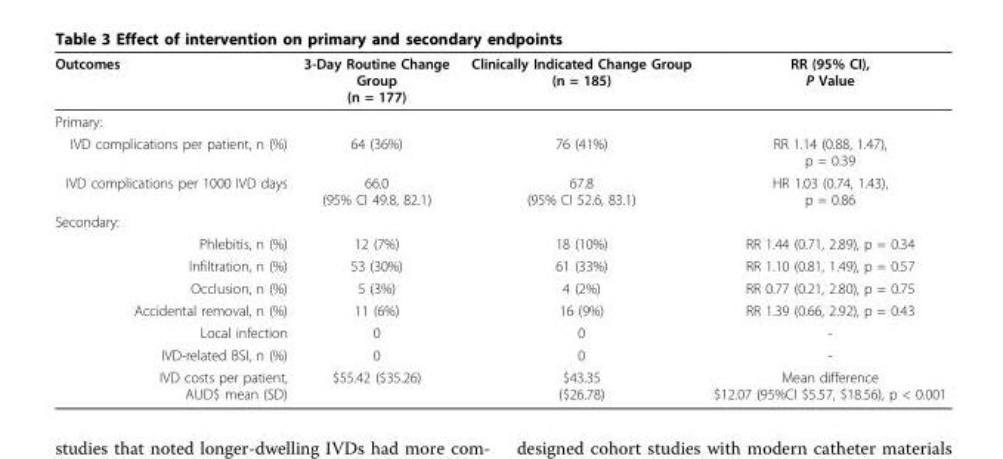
<table><thead><tr><td>Outcomes</td><td>3-Day Routine Change Group (n = 177)</td><td>Clinically Indicated Change Group (n = 185)</td><td>RR (95% CI), P Value</td></tr></thead><tbody><tr><td colspan="4">Primary:</td></tr><tr><td>IVD complications per patient, n (%)</td><td>64 (36%)</td><td>76 (41%)</td><td>RR 1.14 (0.88, 1.47), p = 0.39</td></tr><tr><td>IVD complications per 1000 IVD days</td><td>66.0 (95% CI 49.8, 82.1)</td><td>67.8 (95% CI 52.6, 83.1)</td><td>HR 1.03 (0.74, 1.43), p = 0.86</td></tr><tr><td colspan="4">Secondary:</td></tr><tr><td>Phlebitis, n (%)</td><td>12 (7%)</td><td>18 (10%)</td><td>RR 1.44 (0.71, 2.89), p = 0.34</td></tr><tr><td>Infiltration, n (%)</td><td>53 (30%)</td><td>61 (33%)</td><td>RR 1.10 (0.81, 1.49), p = 0.57</td></tr><tr><td>Occlusion, n (%)</td><td>5 (3%)</td><td>4 (2%)</td><td>RR 0.77 (0.21, 2.80), p = 0.75</td></tr><tr><td>Accidental removal, n (%)</td><td>11 (6%)</td><td>16 (9%)</td><td>RR 1.39 (0.66, 2.92), p = 0.43</td></tr><tr><td>Local infection</td><td>0</td><td>0</td><td>-</td></tr><tr><td>IVD-related BSI, n (%)</td><td>0</td><td>0</td><td>-</td></tr><tr><td>IVD costs per patient, AUD$ mean (SD)</td><td>$55.42 ($35.26)</td><td>$43.35 ($26.78)</td><td>Mean difference $12.07 (95%CI $5.57, $18.56), p &lt; 0.001</td></tr></tbody></table>